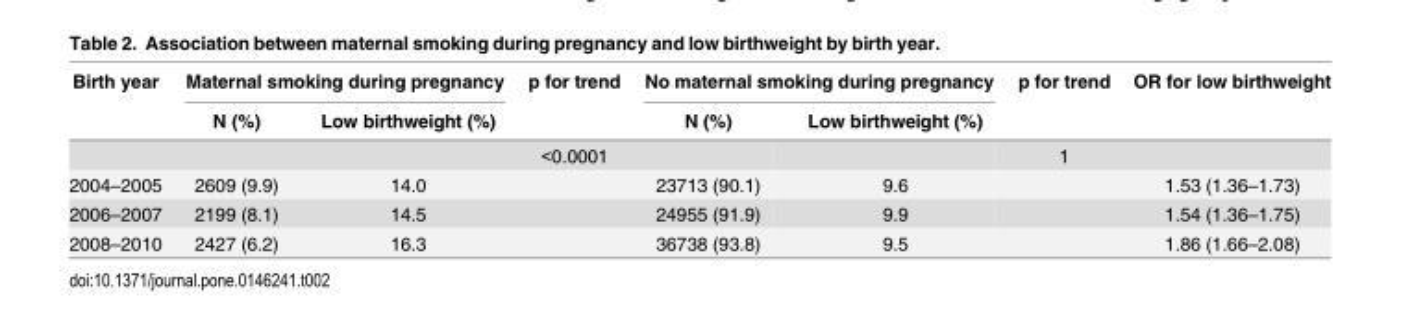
<table><thead><tr><td rowspan="2">Birth year</td><td colspan="2">Maternal smoking during pregnancy</td><td rowspan="2">p for trend</td><td colspan="2">No maternal smoking during pregnancy</td><td rowspan="2">p for trend</td><td rowspan="2">OR for low birthweight</td></tr><tr><td>N (%)</td><td>Low birthweight (%)</td><td>N (%)</td><td>Low birthweight (%)</td></tr></thead><tbody><tr><td></td><td></td><td></td><td>&lt;0.0001</td><td></td><td></td><td>1</td><td></td></tr><tr><td>2004–2005</td><td>2609 (9.9)</td><td>14.0</td><td></td><td>23713 (90.1)</td><td>9.6</td><td rowspan="3"></td><td>1.53 (1.36–1.73)</td></tr><tr><td>2006–2007</td><td>2199 (8.1)</td><td>14.5</td><td></td><td>24955 (91.9)</td><td>9.9</td><td>1.54 (1.36–1.75)</td></tr><tr><td>2008–2010</td><td>2427 (6.2)</td><td>16.3</td><td></td><td>36738 (93.8)</td><td>9.5</td><td>1.86 (1.66–2.08)</td></tr></tbody></table>